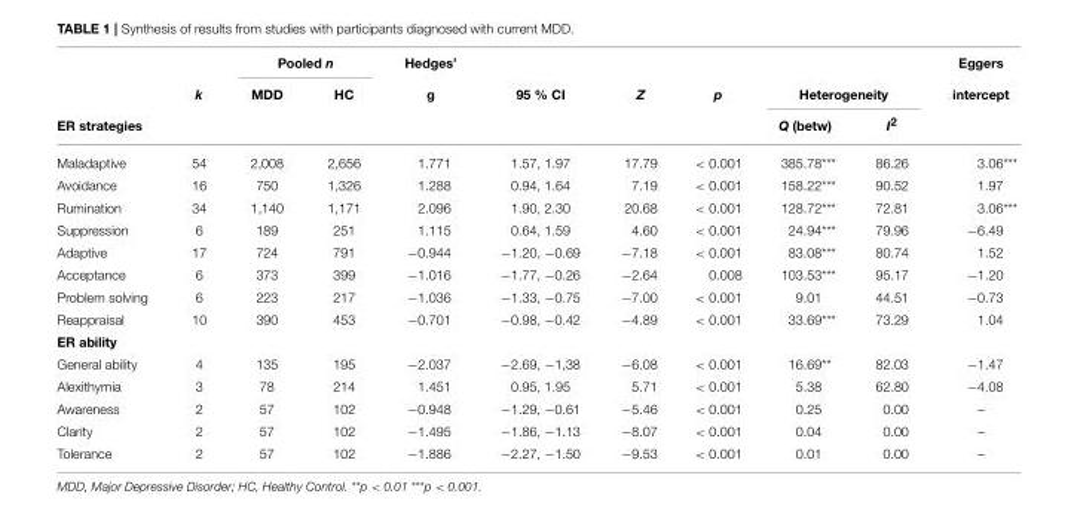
<table><thead><tr><td rowspan="3">ER strategies</td><td rowspan="3">k</td><td colspan="2">Pooled n</td><td rowspan="3">Hedges’ g</td><td rowspan="3">95 % CI</td><td rowspan="3">Z</td><td rowspan="3">p</td><td></td><td></td><td rowspan="3">Eggers intercept</td></tr><tr><td rowspan="2">MDD</td><td rowspan="2">HC</td><td colspan="2">Heterogeneity</td></tr><tr><td>Q (betw)</td><td>I<sup>2</sup></td></tr></thead><tbody><tr><td>Maladaptive</td><td>54</td><td>2,008</td><td>2,656</td><td>1.771</td><td>1.57, 1.97</td><td>17.79</td><td>&lt; 0.001</td><td>385.78***</td><td>86.26</td><td>3.06***</td></tr><tr><td>Avoidance</td><td>16</td><td>750</td><td>1,326</td><td>1.288</td><td>0.94, 1.64</td><td>7.19</td><td>&lt; 0.001</td><td>158.22***</td><td>90.52</td><td>1.97</td></tr><tr><td>Rumination</td><td>34</td><td>1,140</td><td>1,171</td><td>2.096</td><td>1.90, 2.30</td><td>20.68</td><td>&lt; 0.001</td><td>128.72***</td><td>72.81</td><td>3.06***</td></tr><tr><td>Suppression</td><td>6</td><td>189</td><td>251</td><td>1.115</td><td>0.64, 1.59</td><td>4.60</td><td>&lt; 0.001</td><td>24.94***</td><td>79.96</td><td>−6.49</td></tr><tr><td>Adaptive</td><td>17</td><td>724</td><td>791</td><td>−0.944</td><td>−1.20, −0.69</td><td>−7.18</td><td>&lt; 0.001</td><td>83.08***</td><td>80.74</td><td>1.52</td></tr><tr><td>Acceptance</td><td>6</td><td>373</td><td>399</td><td>−1.016</td><td>−1.77, −0.26</td><td>−2.64</td><td>0.008</td><td>103.53***</td><td>95.17</td><td>−1.20</td></tr><tr><td>Problem solving</td><td>6</td><td>223</td><td>217</td><td>−1.036</td><td>−1.33, −0.75</td><td>−7.00</td><td>&lt; 0.001</td><td>9.01</td><td>44.51</td><td>−0.73</td></tr><tr><td>Reappraisal</td><td>10</td><td>390</td><td>453</td><td>−0.701</td><td>−0.98, −0.42</td><td>−4.89</td><td>&lt; 0.001</td><td>33.69***</td><td>73.29</td><td>1.04</td></tr><tr><td colspan="11">ER ability</td></tr><tr><td>General ability</td><td>4</td><td>135</td><td>195</td><td>−2.037</td><td>−2.69, −1,38</td><td>−6.08</td><td>&lt; 0.001</td><td>16.69**</td><td>82.03</td><td>−1.47</td></tr><tr><td>Alexithymia</td><td>3</td><td>78</td><td>214</td><td>1.451</td><td>0.95, 1.95</td><td>5.71</td><td>&lt; 0.001</td><td>5.38</td><td>62.80</td><td>−4.08</td></tr><tr><td>Awareness</td><td>2</td><td>57</td><td>102</td><td>−0.948</td><td>−1.29, −0.61</td><td>−5.46</td><td>&lt; 0.001</td><td>0.25</td><td>0.00</td><td>–</td></tr><tr><td>Clarity</td><td>2</td><td>57</td><td>102</td><td>−1.495</td><td>−1.86, −1.13</td><td>−8.07</td><td>&lt; 0.001</td><td>0.04</td><td>0.00</td><td>–</td></tr><tr><td>Tolerance</td><td>2</td><td>57</td><td>102</td><td>−1.886</td><td>−2.27, −1.50</td><td>−9.53</td><td>&lt; 0.001</td><td>0.01</td><td>0.00</td><td>–</td></tr></tbody></table>